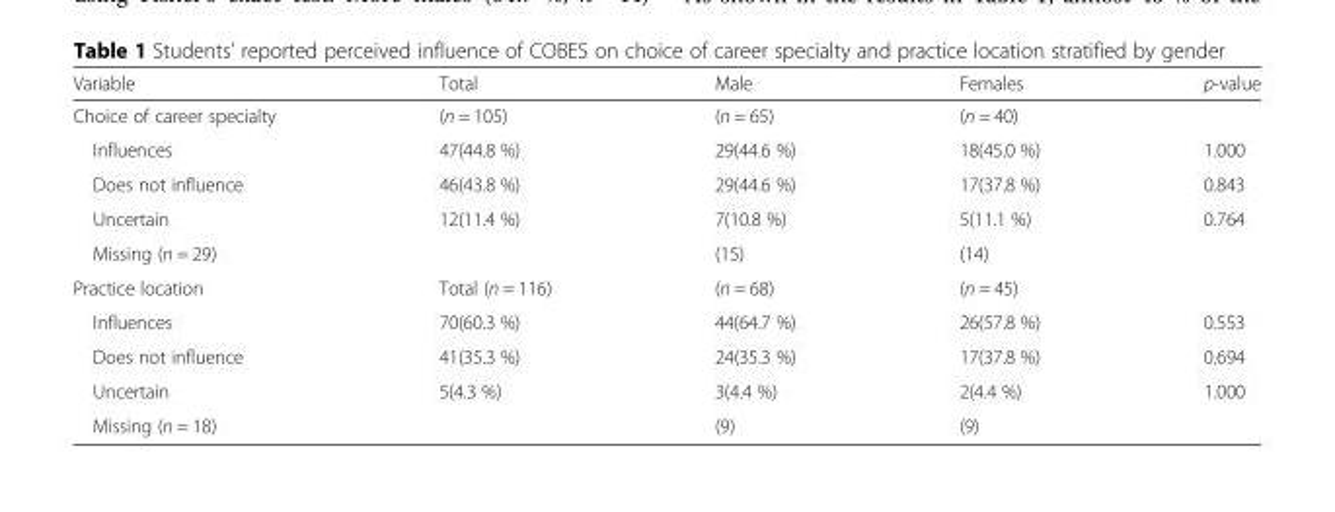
<table><thead><tr><td>Variable</td><td>Total</td><td>Male</td><td>Females</td><td>p-value</td></tr></thead><tbody><tr><td>Choice of career specialty</td><td>(n = 105)</td><td>(n = 65)</td><td>(n = 40)</td><td></td></tr><tr><td>Influences</td><td>47(44.8 %)</td><td>29(44.6 %)</td><td>18(45.0 %)</td><td>1.000</td></tr><tr><td>Does not influence</td><td>46(43.8 %)</td><td>29(44.6 %)</td><td>17(37.8 %)</td><td>0.843</td></tr><tr><td>Uncertain</td><td>12(11.4 %)</td><td>7(10.8 %)</td><td>5(11.1 %)</td><td>0.764</td></tr><tr><td>Missing (n = 29)</td><td></td><td>(15)</td><td>(14)</td><td></td></tr><tr><td>Practice location</td><td>Total (n = 116)</td><td>(n = 68)</td><td>(n = 45)</td><td></td></tr><tr><td>Influences</td><td>70(60.3 %)</td><td>44(64.7 %)</td><td>26(57.8 %)</td><td>0.553</td></tr><tr><td>Does not influence</td><td>41(35.3 %)</td><td>24(35.3 %)</td><td>17(37.8 %)</td><td>0.694</td></tr><tr><td>Uncertain</td><td>5(4.3 %)</td><td>3(4.4 %)</td><td>2(4.4 %)</td><td>1.000</td></tr><tr><td>Missing (n = 18)</td><td></td><td>(9)</td><td>(9)</td><td></td></tr></tbody></table>